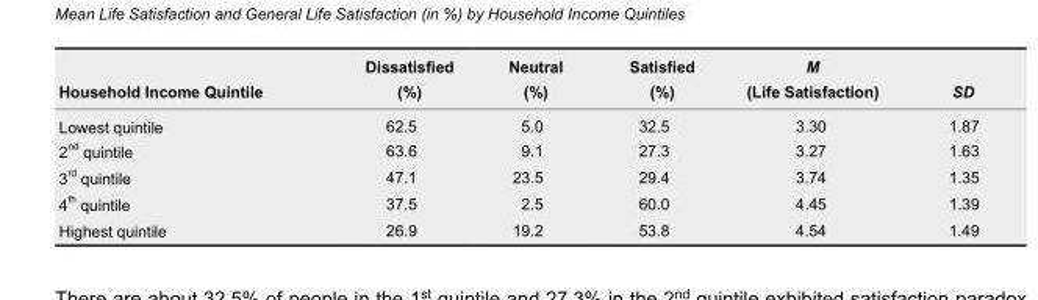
<table><thead><tr><td>Household Income Quintile</td><td>Dissatisfied (%)</td><td>Neutral (%)</td><td>Satisfied (%)</td><td>M (Life Satisfaction)</td><td>SD</td></tr></thead><tbody><tr><td>Lowest quintile</td><td>62.5</td><td>5.0</td><td>32.5</td><td>3.30</td><td>1.87</td></tr><tr><td>2 <sup>nd</sup> quintile</td><td>63.6</td><td>9.1</td><td>27.3</td><td>3.27</td><td>1.63</td></tr><tr><td>3 <sup>rd</sup> quintile</td><td>47.1</td><td>23.5</td><td>29.4</td><td>3.74</td><td>1.35</td></tr><tr><td>4 <sup>th</sup> quintile</td><td>37.5</td><td>2.5</td><td>60.0</td><td>4.45</td><td>1.39</td></tr><tr><td>Highest quintile</td><td>26.9</td><td>19.2</td><td>53.8</td><td>4.54</td><td>1.49</td></tr></tbody></table>